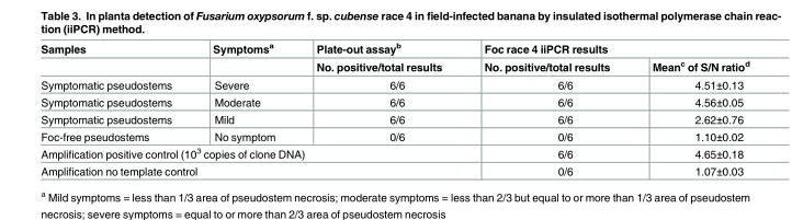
<table><thead><tr><td rowspan="2">Samples</td><td rowspan="2">Symptoms<sup>a</sup></td><td rowspan="2">Plate-out assay<sup>b</sup> No. positive/total results</td><td colspan="2">Foc race 4 iiPCR results</td></tr><tr><td>No. positive/total results</td><td>Mean<sup>c</sup> of S/N ratio<sup>d</sup></td></tr></thead><tbody><tr><td>Symptomatic pseudostems</td><td>Severe</td><td>6/6</td><td>6/6</td><td>4.51±0.13</td></tr><tr><td>Symptomatic pseudostems</td><td>Moderate</td><td>6/6</td><td>6/6</td><td>4.56±0.05</td></tr><tr><td>Symptomatic pseudostems</td><td>Mild</td><td>6/6</td><td>6/6</td><td>2.62±0.76</td></tr><tr><td>Foc-free pseudostems</td><td>No symptom</td><td>0/6</td><td>0/6</td><td>1.10±0.02</td></tr><tr><td colspan="3">Amplification positive control (10<sup>3</sup> copies of clone DNA)</td><td>6/6</td><td>4.65±0.18</td></tr><tr><td colspan="3">Amplification no template control</td><td>0/6</td><td>1.07±0.03</td></tr></tbody></table>